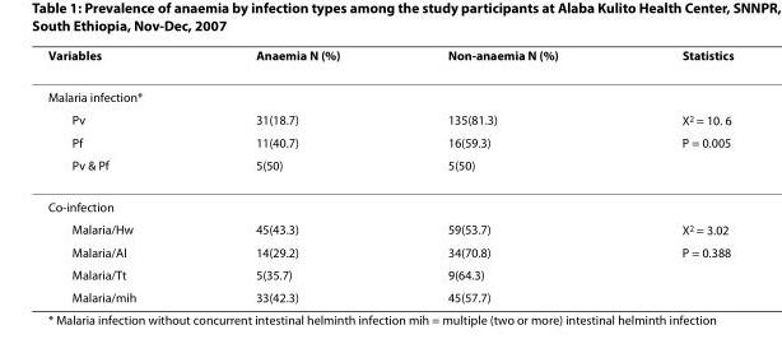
<table><thead><tr><td>Variables</td><td>Anaemia N (%)</td><td>Non-anaemia N (%)</td><td>Statistics</td></tr></thead><tbody><tr><td colspan="4">Malaria infection*</td></tr><tr><td>Pv</td><td>31(18.7)</td><td>135(81.3)</td><td>X<sup>2</sup> = 10. 6</td></tr><tr><td>Pf</td><td>11(40.7)</td><td>16(59.3)</td><td>P = 0.005</td></tr><tr><td>Pv &amp; Pf</td><td>5(50)</td><td>5(50)</td><td></td></tr><tr><td colspan="4">Co-infection</td></tr><tr><td>Malaria/Hw</td><td>45(43.3)</td><td>59(53.7)</td><td>X<sup>2</sup> = 3.02</td></tr><tr><td>Malaria/Al</td><td>14(29.2)</td><td>34(70.8)</td><td>P = 0.388</td></tr><tr><td>Malaria/Tt</td><td>5(35.7)</td><td>9(64.3)</td><td></td></tr><tr><td>Malaria/mih</td><td>33(42.3)</td><td>45(57.7)</td><td></td></tr></tbody></table>